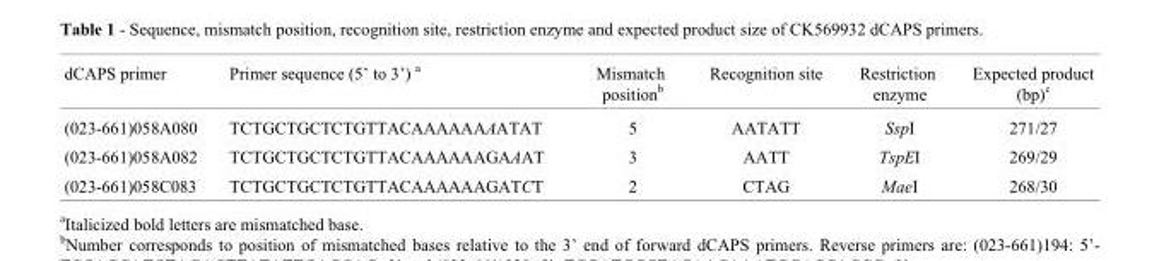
<table><thead><tr><td>dCAPS primer</td><td>Primer sequence (5’ to 3’) <sup>a</sup></td><td>Mismatch position<sup>b</sup></td><td>Recognition site</td><td>Restriction enzyme</td><td>Expected product (bp)<sup>c</sup></td></tr></thead><tbody><tr><td>(023-661)058A080</td><td>TCTGCTGCTCTGTTACAAAAAAAATAT</td><td>5</td><td>AATATT</td><td>SspI</td><td>271/27</td></tr><tr><td>(023-661)058A082</td><td>TCTGCTGCTCTGTTACAAAAAAGAAAT</td><td>3</td><td>AATT</td><td>TspEI</td><td>269/29</td></tr><tr><td>(023-661)058C083</td><td>TCTGCTGCTCTGTTACAAAAAAGATCT</td><td>2</td><td>CTAG</td><td>MaeI</td><td>268/30</td></tr></tbody></table>